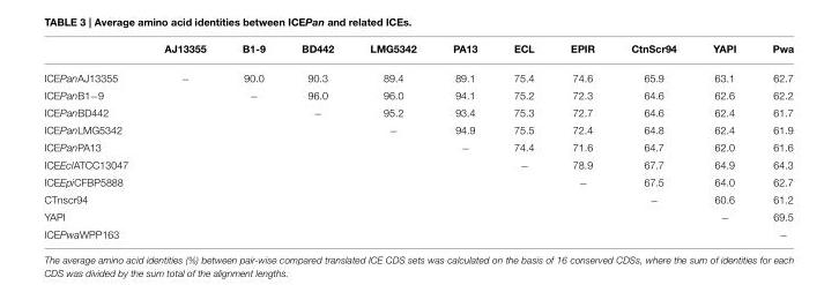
<table><thead><tr><td></td><td>AJ13355</td><td>B1-9</td><td>BD442</td><td>LMG5342</td><td>PA13</td><td>ECL</td><td>EPIR</td><td>CtnScr94</td><td>YAPI</td><td>Pwa</td></tr></thead><tbody><tr><td>ICEPanAJ13355</td><td>−</td><td>90.0</td><td>90.3</td><td>89.4</td><td>89.1</td><td>75.4</td><td>74.6</td><td>65.9</td><td>63.1</td><td>62.7</td></tr><tr><td>ICEPanB1−9</td><td></td><td>−</td><td>96.0</td><td>96.0</td><td>94.1</td><td>75.2</td><td>72.3</td><td>64.6</td><td>62.6</td><td>62.2</td></tr><tr><td>ICEPanBD442</td><td></td><td></td><td>−</td><td>95.2</td><td>93.4</td><td>75.3</td><td>72.7</td><td>64.6</td><td>62.4</td><td>61.7</td></tr><tr><td>ICEPanLMG5342</td><td></td><td></td><td></td><td>−</td><td>94.9</td><td>75.5</td><td>72.4</td><td>64.8</td><td>62.4</td><td>61.9</td></tr><tr><td>ICEPanPA13</td><td></td><td></td><td></td><td></td><td>−</td><td>74.4</td><td>71.6</td><td>64.7</td><td>62.0</td><td>61.6</td></tr><tr><td>ICEEclATCC13047</td><td></td><td></td><td></td><td></td><td></td><td>−</td><td>78.9</td><td>67.7</td><td>64.9</td><td>64.3</td></tr><tr><td>ICEEpiCFBP5888</td><td></td><td></td><td></td><td></td><td></td><td></td><td>−</td><td>67.5</td><td>64.0</td><td>62.7</td></tr><tr><td>CTnscr94</td><td></td><td></td><td></td><td></td><td></td><td></td><td></td><td>−</td><td>60.6</td><td>61.2</td></tr><tr><td>YAPI</td><td></td><td></td><td></td><td></td><td></td><td></td><td></td><td></td><td>−</td><td>69.5</td></tr><tr><td>ICEPwaWPP163</td><td></td><td></td><td></td><td></td><td></td><td></td><td></td><td></td><td></td><td>−</td></tr></tbody></table>